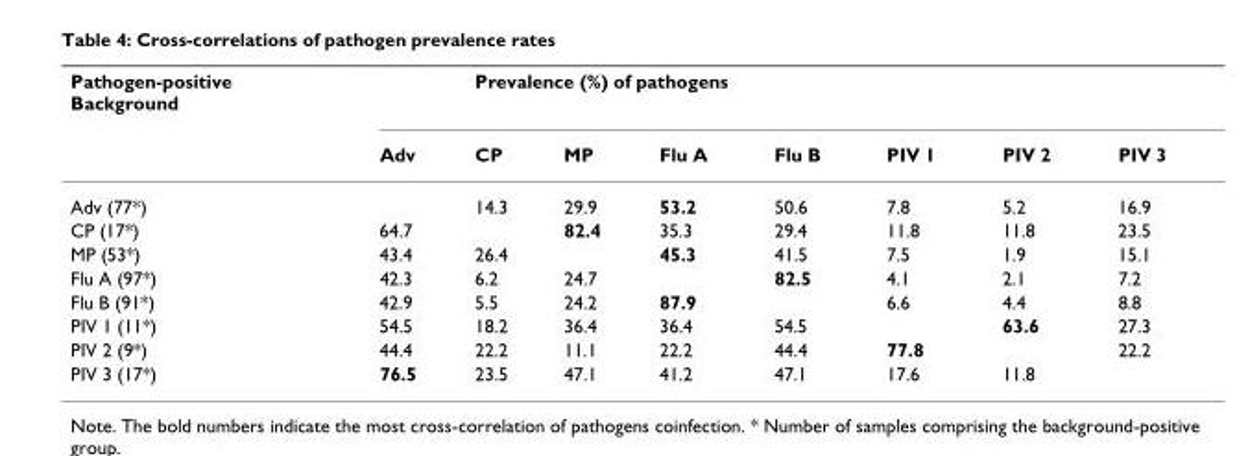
<table><thead><tr><td rowspan="2">Pathogen-positive Background</td><td rowspan="2">Adv</td><td colspan="6">Prevalence (%) of pathogens</td><td rowspan="2">PIV 3</td></tr><tr><td>CP</td><td>MP</td><td>Flu A</td><td>Flu B</td><td>PIV 1</td><td>PIV 2</td></tr></thead><tbody><tr><td>Adv (77*)</td><td></td><td>14.3</td><td>29.9</td><td>53.2</td><td>50.6</td><td>7.8</td><td>5.2</td><td>16.9</td></tr><tr><td>CP (17*)</td><td>64.7</td><td></td><td>82.4</td><td>35.3</td><td>29.4</td><td>11.8</td><td>11.8</td><td>23.5</td></tr><tr><td>MP (53*)</td><td>43.4</td><td>26.4</td><td></td><td>45.3</td><td>41.5</td><td>7.5</td><td>1.9</td><td>15.1</td></tr><tr><td>Flu A (97*)</td><td>42.3</td><td>6.2</td><td>24.7</td><td></td><td>82.5</td><td>4.1</td><td>2.1</td><td>7.2</td></tr><tr><td>Flu B (91*)</td><td>42.9</td><td>5.5</td><td>24.2</td><td>87.9</td><td></td><td>6.6</td><td>4.4</td><td>8.8</td></tr><tr><td>PIV 1 (11*)</td><td>54.5</td><td>18.2</td><td>36.4</td><td>36.4</td><td>54.5</td><td></td><td>63.6</td><td>27.3</td></tr><tr><td>PIV 2 (9*)</td><td>44.4</td><td>22.2</td><td>11.1</td><td>22.2</td><td>44.4</td><td>77.8</td><td></td><td>22.2</td></tr><tr><td>PIV 3 (17*)</td><td>76.5</td><td>23.5</td><td>47.1</td><td>41.2</td><td>47.1</td><td>17.6</td><td>11.8</td><td></td></tr></tbody></table>